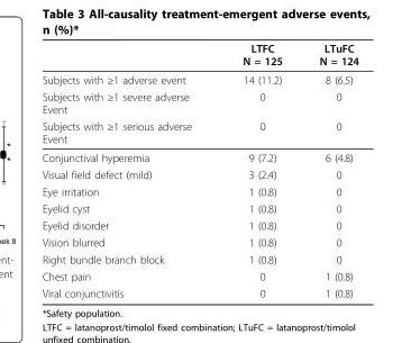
<table><thead><tr><td></td><td>LTFC N = 125</td><td>LTuFC N = 124</td></tr></thead><tbody><tr><td>Subjects with ≥1 adverse event</td><td>14 (11.2)</td><td>8 (6.5)</td></tr><tr><td>Subjects with ≥1 severe adverse Event</td><td>0</td><td>0</td></tr><tr><td>Subjects with ≥1 serious adverse Event</td><td>0</td><td>0</td></tr><tr><td>Conjunctival hyperemia</td><td>9 (7.2)</td><td>6 (4.8)</td></tr><tr><td>Visual field defect (mild)</td><td>3 (2.4)</td><td>0</td></tr><tr><td>Eye irritation</td><td>1 (0.8)</td><td>0</td></tr><tr><td>Eyelid cyst</td><td>1 (0.8)</td><td>0</td></tr><tr><td>Eyelid disorder</td><td>1 (0.8)</td><td>0</td></tr><tr><td>Vision blurred</td><td>1 (0.8)</td><td>0</td></tr><tr><td>Right bundle branch block</td><td>1 (0.8)</td><td>0</td></tr><tr><td>Chest pain</td><td>0</td><td>1 (0.8)</td></tr><tr><td>Viral conjunctivitis</td><td>0</td><td>1 (0.8)</td></tr></tbody></table>